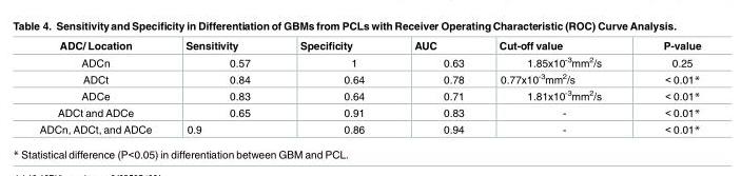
<table><thead><tr><td>ADC/ Location</td><td>Sensitivity</td><td>Specificity</td><td>AUC</td><td>Cut-off value</td><td>P-value</td></tr></thead><tbody><tr><td>ADCn</td><td>0.57</td><td>1</td><td>0.63</td><td>1.85x10<sup>-3</sup>mm<sup>2</sup>/s</td><td>0.25</td></tr><tr><td>ADCt</td><td>0.84</td><td>0.64</td><td>0.78</td><td>0.77x10<sup>-3</sup>mm<sup>2</sup>/s</td><td>&lt; 0.01*</td></tr><tr><td>ADCe</td><td>0.83</td><td>0.64</td><td>0.71</td><td>1.81x10<sup>-3</sup>mm<sup>2</sup>/s</td><td>&lt; 0.01*</td></tr><tr><td>ADCt and ADCe</td><td>0.65</td><td>0.91</td><td>0.83</td><td>-</td><td>&lt; 0.01*</td></tr><tr><td>ADCn, ADCt, and ADCe</td><td>0.9</td><td>0.86</td><td>0.94</td><td>-</td><td>&lt; 0.01*</td></tr></tbody></table>